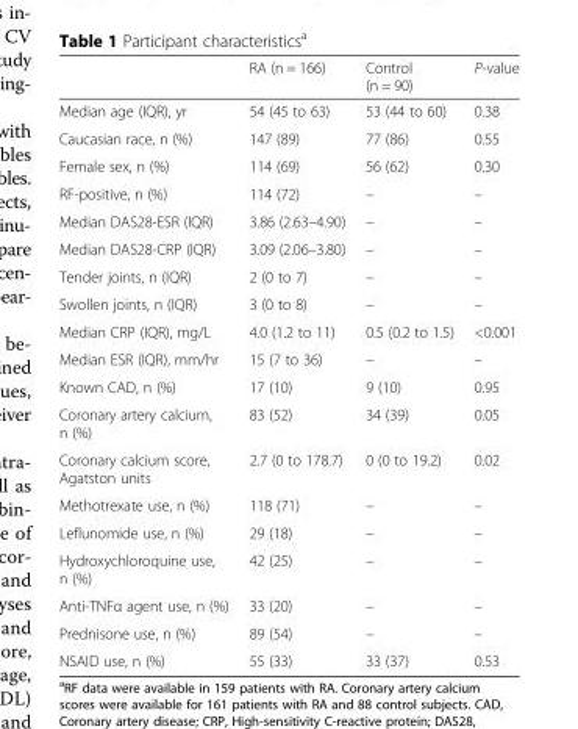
<table><thead><tr><td></td><td>RA (n = 166)</td><td>Control (n = 90)</td><td>P-value</td></tr></thead><tbody><tr><td>Median age (IQR), yr</td><td>54 (45 to 63)</td><td>53 (44 to 60)</td><td>0.38</td></tr><tr><td>Caucasian race, n (%)</td><td>147 (89)</td><td>77 (86)</td><td>0.55</td></tr><tr><td>Female sex, n (%)</td><td>114 (69)</td><td>56 (62)</td><td>0.30</td></tr><tr><td>RF-positive, n (%)</td><td>114 (72)</td><td>–</td><td>–</td></tr><tr><td>Median DAS28-ESR (IQR)</td><td>3.86 (2.63–4.90)</td><td>–</td><td>–</td></tr><tr><td>Median DAS28-CRP (IQR)</td><td>3.09 (2.06–3.80)</td><td>–</td><td>–</td></tr><tr><td>Tender joints, n (IQR)</td><td>2 (0 to 7)</td><td>–</td><td>–</td></tr><tr><td>Swollen joints, n (IQR)</td><td>3 (0 to 8)</td><td>–</td><td>–</td></tr><tr><td>Median CRP (IQR), mg/L</td><td>4.0 (1.2 to 11)</td><td>0.5 (0.2 to 1.5)</td><td>&lt;0.001</td></tr><tr><td>Median ESR (IQR), mm/hr</td><td>15 (7 to 36)</td><td>–</td><td>–</td></tr><tr><td>Known CAD, n (%)</td><td>17 (10)</td><td>9 (10)</td><td>0.95</td></tr><tr><td>Coronary artery calcium, n (%)</td><td>83 (52)</td><td>34 (39)</td><td>0.05</td></tr><tr><td>Coronary calcium score, Agatston units</td><td>2.7 (0 to 178.7)</td><td>0 (0 to 19.2)</td><td>0.02</td></tr><tr><td>Methotrexate use, n (%)</td><td>118 (71)</td><td>–</td><td>–</td></tr><tr><td>Leflunomide use, n (%)</td><td>29 (18)</td><td>–</td><td>–</td></tr><tr><td>Hydroxychloroquine use, n (%)</td><td>42 (25)</td><td>–</td><td>–</td></tr><tr><td>Anti-TNFα agent use, n (%)</td><td>33 (20)</td><td>–</td><td>–</td></tr><tr><td>Prednisone use, n (%)</td><td>89 (54)</td><td>–</td><td>–</td></tr><tr><td>NSAID use, n (%)</td><td>55 (33)</td><td>33 (37)</td><td>0.53</td></tr></tbody></table>